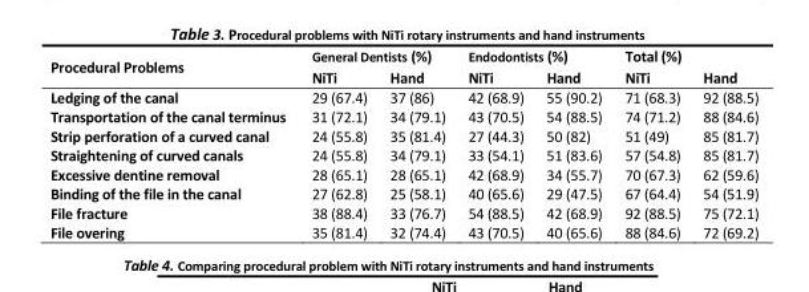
<table><thead><tr><td rowspan="2">Procedural Problems</td><td colspan="2">General Dentists (%)</td><td colspan="2">Endodontists (%)</td><td colspan="2">Total (%)</td></tr><tr><td>NiTi</td><td>Hand</td><td>NiTi</td><td>Hand</td><td>NiTi</td><td>Hand</td></tr></thead><tbody><tr><td>Ledging of the canal</td><td>29 (67.4)</td><td>37 (86)</td><td>42 (68.9)</td><td>55 (90.2)</td><td>71 (68.3)</td><td>92 (88.5)</td></tr><tr><td>Transportation of the canal terminus</td><td>31 (72.1)</td><td>34 (79.1)</td><td>43 (70.5)</td><td>54 (88.5)</td><td>74 (71.2)</td><td>88 (84.6)</td></tr><tr><td>Strip perforation of a curved canal</td><td>24 (55.8)</td><td>35 (81.4)</td><td>27 (44.3)</td><td>50 (82)</td><td>51 (49)</td><td>85 (81.7)</td></tr><tr><td>Straightening of curved canals</td><td>24 (55.8)</td><td>34 (79.1)</td><td>33 (54.1)</td><td>51 (83.6)</td><td>57 (54.8)</td><td>85 (81.7)</td></tr><tr><td>Excessive dentine removal</td><td>28 (65.1)</td><td>28 (65.1)</td><td>42 (68.9)</td><td>34 (55.7)</td><td>70 (67.3)</td><td>62 (59.6)</td></tr><tr><td>Binding of the file in the canal</td><td>27 (62.8)</td><td>25 (58.1)</td><td>40 (65.6)</td><td>29 (47.5)</td><td>67 (64.4)</td><td>54 (51.9)</td></tr><tr><td>File fracture</td><td>38 (88.4)</td><td>33 (76.7)</td><td>54 (88.5)</td><td>42 (68.9)</td><td>92 (88.5)</td><td>75 (72.1)</td></tr><tr><td>File overing</td><td>35 (81.4)</td><td>32 (74.4)</td><td>43 (70.5)</td><td>40 (65.6)</td><td>88 (84.6)</td><td>72 (69.2)</td></tr></tbody></table>